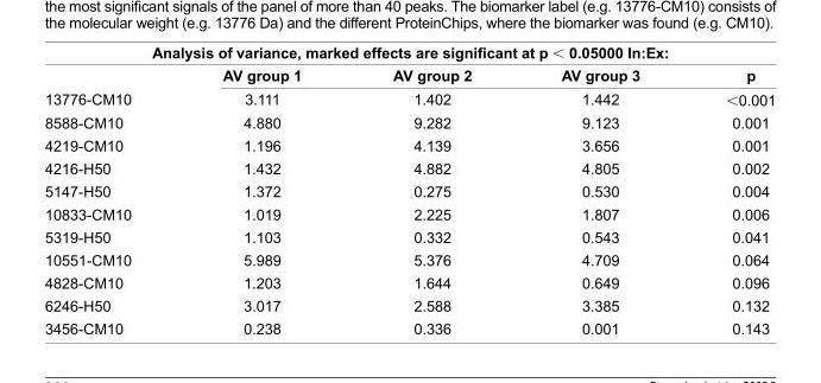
<table><thead><tr><td colspan="5">Analysis of variance, marked effects are signifi cant at p &lt; 0.05000 In:Ex:</td></tr><tr><td></td><td>AV group 1</td><td>AV group 2</td><td>AV group 3</td><td>p</td></tr></thead><tbody><tr><td>13776-CM10</td><td>3.111</td><td>1.402</td><td>1.442</td><td>30.001</td></tr><tr><td>8588-CM10</td><td>4.880</td><td>9.282</td><td>9.123</td><td>0.001</td></tr><tr><td>4219-CM10</td><td>1.196</td><td>4.139</td><td>3.656</td><td>0.001</td></tr><tr><td>4216-H50</td><td>1.432</td><td>4.882</td><td>4.805</td><td>0.002</td></tr><tr><td>5147-H50</td><td>1.372</td><td>0.275</td><td>0.530</td><td>0.004</td></tr><tr><td>10833-CM10</td><td>1.019</td><td>2.225</td><td>1.807</td><td>0.006</td></tr><tr><td>5319-H50</td><td>1.103</td><td>0.332</td><td>0.543</td><td>0.041</td></tr><tr><td>10551-CM10</td><td>5.989</td><td>5.376</td><td>4.709</td><td>0.064</td></tr><tr><td>4828-CM10</td><td>1.203</td><td>1.644</td><td>0.649</td><td>0.096</td></tr><tr><td>6246-H50</td><td>3.017</td><td>2.588</td><td>3.385</td><td>0.132</td></tr><tr><td>3456-CM10</td><td>0.238</td><td>0.336</td><td>0.001</td><td>0.143</td></tr></tbody></table>